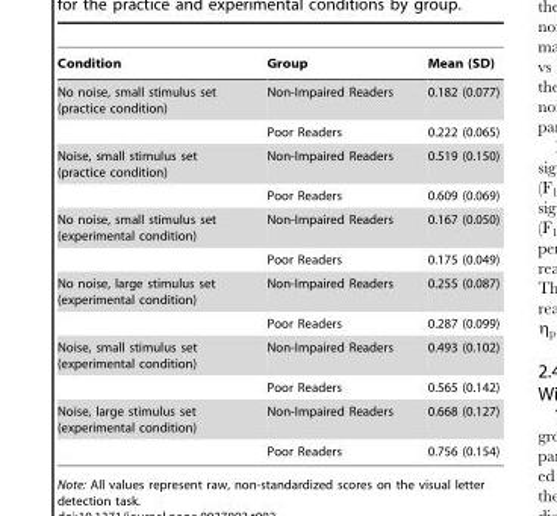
<table><thead><tr><td>Condition</td><td>Group</td><td>Mean (SD)</td></tr></thead><tbody><tr><td rowspan="2">No noise, small stimulus set (practice condition)</td><td>Non-Impaired Readers</td><td>0.182 (0.077)</td></tr><tr><td>Poor Readers</td><td>0.222 (0.065)</td></tr><tr><td rowspan="2">Noise, small stimulus set (practice condition)</td><td>Non-Impaired Readers</td><td>0.519 (0.150)</td></tr><tr><td>Poor Readers</td><td>0.609 (0.069)</td></tr><tr><td rowspan="2">No noise, small stimulus set (experimental condition)</td><td>Non-Impaired Readers</td><td>0.167 (0.050)</td></tr><tr><td>Poor Readers</td><td>0.175 (0.049)</td></tr><tr><td rowspan="2">No noise, large stimulus set (experimental condition)</td><td>Non-Impaired Readers</td><td>0.255 (0.087)</td></tr><tr><td>Poor Readers</td><td>0.287 (0.099)</td></tr><tr><td rowspan="2">Noise, small stimulus set (experimental condition)</td><td>Non-Impaired Readers</td><td>0.493 (0.102)</td></tr><tr><td>Poor Readers</td><td>0.565 (0.142)</td></tr><tr><td rowspan="2">Noise, large stimulus set (experimental condition)</td><td>Non-Impaired Readers</td><td>0.668 (0.127)</td></tr><tr><td>Poor Readers</td><td>0.756 (0.154)</td></tr></tbody></table>